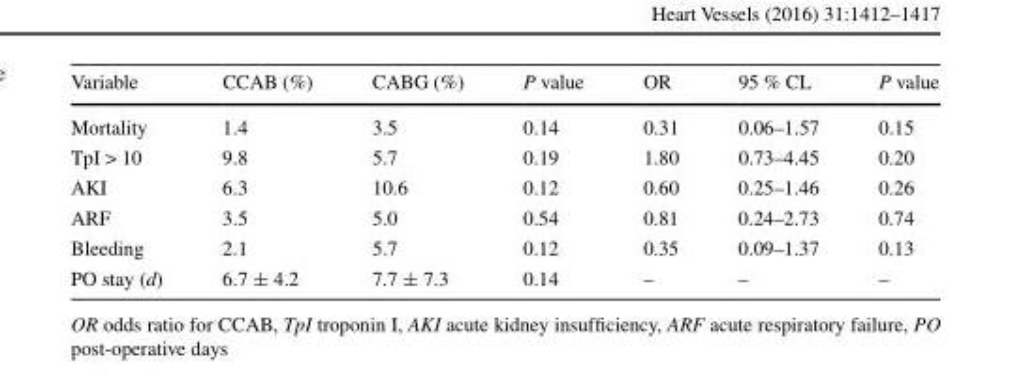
<table><thead><tr><td>Variable</td><td>CCAB (%)</td><td>CABG (%)</td><td>P value</td><td>OR</td><td>95 % CL</td><td>P value</td></tr></thead><tbody><tr><td>Mortality</td><td>1.4</td><td>3.5</td><td>0.14</td><td>0.31</td><td>0.06–1.57</td><td>0.15</td></tr><tr><td>TpI &gt; 10</td><td>9.8</td><td>5.7</td><td>0.19</td><td>1.80</td><td>0.73–4.45</td><td>0.20</td></tr><tr><td>AKI</td><td>6.3</td><td>10.6</td><td>0.12</td><td>0.60</td><td>0.25–1.46</td><td>0.26</td></tr><tr><td>ARF</td><td>3.5</td><td>5.0</td><td>0.54</td><td>0.81</td><td>0.24–2.73</td><td>0.74</td></tr><tr><td>Bleeding</td><td>2.1</td><td>5.7</td><td>0.12</td><td>0.35</td><td>0.09–1.37</td><td>0.13</td></tr><tr><td>PO stay (d)</td><td>6.7 ± 4.2</td><td>7.7 ± 7.3</td><td>0.14</td><td>–</td><td>–</td><td>–</td></tr></tbody></table>